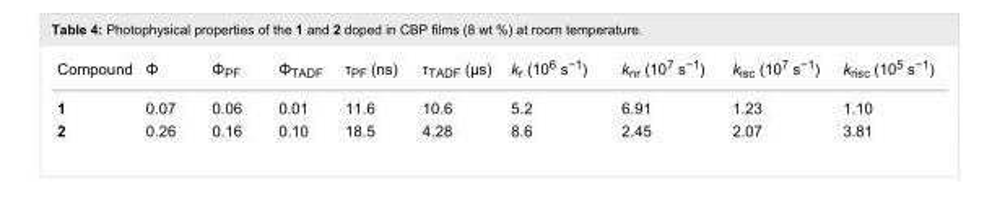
<table><tbody><tr><td>Compound</td><td>Φ</td><td>Φ<sub>PF</sub></td><td>Φ<sub>TADF</sub></td><td>τ<sub>PF</sub> (ns)</td><td>τ<sub>TADF</sub> (μs)</td><td>k<sub>r</sub> (10<sup>6</sup> s<sup>−1</sup>)</td><td>k<sub>nr</sub> (10<sup>7</sup> s<sup>−1</sup>)</td><td>k<sub>isc</sub> (10<sup>7</sup> s<sup>−1</sup>)</td><td>k<sub>risc</sub> (10<sup>5</sup> s<sup>−1</sup>)</td></tr><tr><td>1</td><td>0.07</td><td>0.06</td><td>0.01</td><td>11.6</td><td>10.6</td><td>5.2</td><td>6.91</td><td>1.23</td><td>1.10</td></tr><tr><td>2</td><td>0.26</td><td>0.16</td><td>0.10</td><td>18.5</td><td>4.28</td><td>8.6</td><td>2.45</td><td>2.07</td><td>3.81</td></tr></tbody></table>